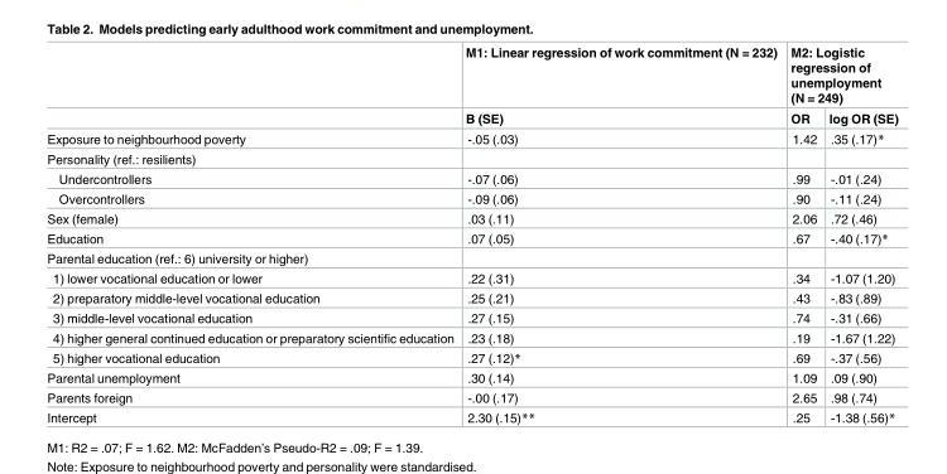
<table><thead><tr><td rowspan="2"></td><td rowspan="2">M1: Linear regression of work commitment (N = 232) B (SE)</td><td colspan="2">M2: Logistic regression of unemployment (N = 249)</td></tr><tr><td>OR</td><td>log OR (SE)</td></tr></thead><tbody><tr><td>Exposure to neighbourhood poverty</td><td>-.05 (.03)</td><td>1.42</td><td>.35 (.17)*</td></tr><tr><td colspan="4">Personality (ref.: resilients)</td></tr><tr><td>Undercontrollers</td><td>-.07 (.06)</td><td>.99</td><td>-.01 (.24)</td></tr><tr><td>Overcontrollers</td><td>-.09 (.06)</td><td>.90</td><td>-.11 (.24)</td></tr><tr><td>Sex (female)</td><td>.03 (.11)</td><td>2.06</td><td>.72 (.46)</td></tr><tr><td>Education</td><td>.07 (.05)</td><td>.67</td><td>-.40 (.17)*</td></tr><tr><td colspan="4">Parental education (ref.: 6) university or higher)</td></tr><tr><td>1) lower vocational education or lower</td><td>.22 (.31)</td><td>.34</td><td>-1.07 (1.20)</td></tr><tr><td>2) preparatory middle-level vocational education</td><td>.25 (.21)</td><td>.43</td><td>-.83 (.89)</td></tr><tr><td>3) middle-level vocational education</td><td>.27 (.15)</td><td>.74</td><td>-.31 (.66)</td></tr><tr><td>4) higher general continued education or preparatory scientific education</td><td>.23 (.18)</td><td>.19</td><td>-1.67 (1.22)</td></tr><tr><td>5) higher vocational education</td><td>.27 (.12)*</td><td>.69</td><td>-.37 (.56)</td></tr><tr><td>Parental unemployment</td><td>.30 (.14)</td><td>1.09</td><td>.09 (.90)</td></tr><tr><td>Parents foreign</td><td>-.00 (.17)</td><td>2.65</td><td>.98 (.74)</td></tr><tr><td>Intercept</td><td>2.30 (.15)**</td><td>.25</td><td>-1.38 (.56)*</td></tr></tbody></table>